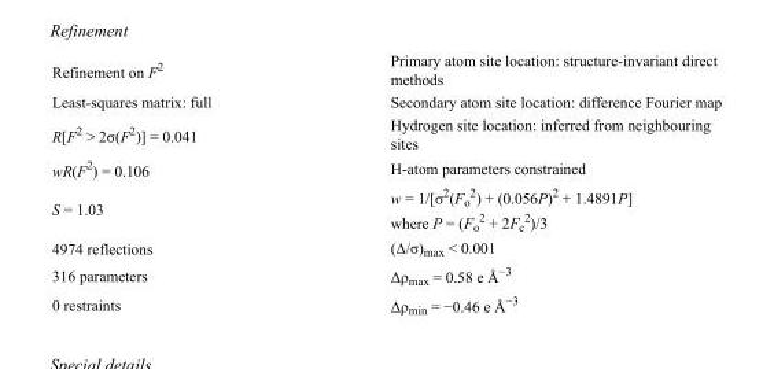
<table><tbody><tr><td>Refinement on F<sup>2</sup></td><td>Primary atom site location: structure-invariant direct methods</td></tr><tr><td>Least-squares matrix: full</td><td>Secondary atom site location: difference Fourier map</td></tr><tr><td>R[F<sup>2</sup> &gt; 2σ(F<sup>2</sup>)] = 0.041</td><td>Hydrogen site location: inferred from neighbouring sites</td></tr><tr><td>wR(F<sup>2</sup>) = 0.106</td><td>H-atom parameters constrained</td></tr><tr><td>S = 1.03</td><td>w = 1/[σ<sup>2</sup>(F<sub>o</sub> <sup>2</sup>) + (0.056P)<sup>2</sup> + 1.4891P] where P = (F<sub>o</sub> <sup>2</sup> + 2F<sub>c</sub> <sup>2</sup>)/3</td></tr><tr><td>4974 reflections</td><td>(Δ/σ)<sub>max</sub> &lt; 0.001</td></tr><tr><td>316 parameters</td><td>Δρ<sub>max</sub> = 0.58 e Å<sup>−3</sup></td></tr><tr><td>0 restraints</td><td>Δρ<sub>min</sub> = −0.46 e Å<sup>−3</sup></td></tr></tbody></table>